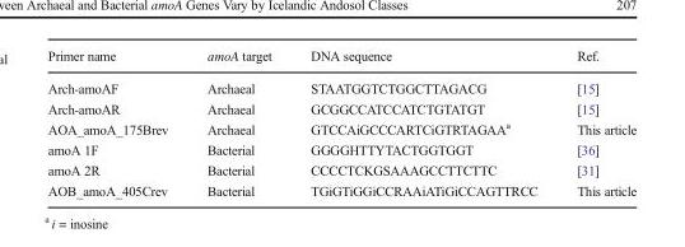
<table><thead><tr><td>Primer name</td><td>amoA target</td><td>DNA sequence</td><td>Ref.</td></tr></thead><tbody><tr><td>Arch-amoAF</td><td>Archaeal</td><td>STAATGGTCTGGCTTAGACG</td><td>[15]</td></tr><tr><td>Arch-amoAR</td><td>Archaeal</td><td>GCGGCCATCCATCTGTATGT</td><td>[15]</td></tr><tr><td>AOA_amoA_175Brev</td><td>Archaeal</td><td>GTCCAiGCCCARTCiGTRTAGAA<sup>a</sup></td><td>This article</td></tr><tr><td>amoA 1F</td><td>Bacterial</td><td>GGGGHTTYTACTGGTGGT</td><td>[36]</td></tr><tr><td>amoA 2R</td><td>Bacterial</td><td>CCCCTCKGSAAAGCCTTCTTC</td><td>[31]</td></tr><tr><td>AOB_amoA_405Crev</td><td>Bacterial</td><td>TGiGTiGGiCCRAAiATiGiCCAGTTRCC</td><td>This article</td></tr></tbody></table>